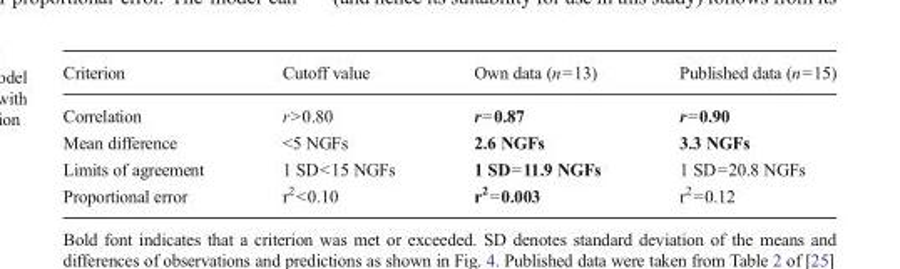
<table><thead><tr><td>Criterion</td><td>Cutoff value</td><td>Own data (n=13)</td><td>Published data (n=15)</td></tr></thead><tbody><tr><td>Correlation</td><td>r&gt;0.80</td><td>r=0.87</td><td>r=0.90</td></tr><tr><td>Mean difference</td><td>&lt;5 NGFs</td><td>2.6 NGFs</td><td>3.3 NGFs</td></tr><tr><td>Limits of agreement</td><td>1 SD&lt;15 NGFs</td><td>1 SD=11.9 NGFs</td><td>1 SD=20.8 NGFs</td></tr><tr><td>Proportional error</td><td>r<sup>2</sup>&lt;0.10</td><td>r<sup>2</sup>=0.003</td><td>r<sup>2</sup>=0.12</td></tr></tbody></table>